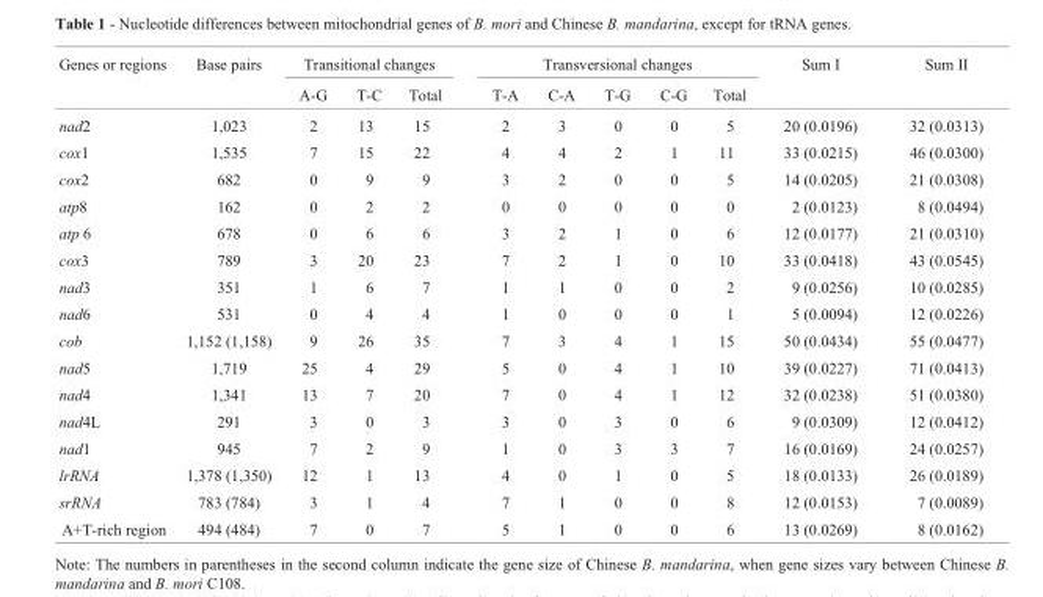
<table><thead><tr><td rowspan="2">Genes or regions</td><td rowspan="2">Base pairs</td><td colspan="3">Transitional changes</td><td colspan="5">Transversional changes</td><td rowspan="2">Sum I</td><td rowspan="2">Sum II</td></tr><tr><td>A-G</td><td>T-C</td><td>Total</td><td>T-A</td><td>C-A</td><td>T-G</td><td>C-G</td><td>Total</td></tr></thead><tbody><tr><td>nad2</td><td>1,023</td><td>2</td><td>13</td><td>15</td><td>2</td><td>3</td><td>0</td><td>0</td><td>5</td><td>20 (0.0196)</td><td>32 (0.0313)</td></tr><tr><td>cox1</td><td>1,535</td><td>7</td><td>15</td><td>22</td><td>4</td><td>4</td><td>2</td><td>1</td><td>11</td><td>33 (0.0215)</td><td>46 (0.0300)</td></tr><tr><td>cox2</td><td>682</td><td>0</td><td>9</td><td>9</td><td>3</td><td>2</td><td>0</td><td>0</td><td>5</td><td>14 (0.0205)</td><td>21 (0.0308)</td></tr><tr><td>atp8</td><td>162</td><td>0</td><td>2</td><td>2</td><td>0</td><td>0</td><td>0</td><td>0</td><td>0</td><td>2 (0.0123)</td><td>8 (0.0494)</td></tr><tr><td>atp 6</td><td>678</td><td>0</td><td>6</td><td>6</td><td>3</td><td>2</td><td>1</td><td>0</td><td>6</td><td>12 (0.0177)</td><td>21 (0.0310)</td></tr><tr><td>cox3</td><td>789</td><td>3</td><td>20</td><td>23</td><td>7</td><td>2</td><td>1</td><td>0</td><td>10</td><td>33 (0.0418)</td><td>43 (0.0545)</td></tr><tr><td>nad3</td><td>351</td><td>1</td><td>6</td><td>7</td><td>1</td><td>1</td><td>0</td><td>0</td><td>2</td><td>9 (0.0256)</td><td>10 (0.0285)</td></tr><tr><td>nad6</td><td>531</td><td>0</td><td>4</td><td>4</td><td>1</td><td>0</td><td>0</td><td>0</td><td>1</td><td>5 (0.0094)</td><td>12 (0.0226)</td></tr><tr><td>cob</td><td>1,152 (1,158)</td><td>9</td><td>26</td><td>35</td><td>7</td><td>3</td><td>4</td><td>1</td><td>15</td><td>50 (0.0434)</td><td>55 (0.0477)</td></tr><tr><td>nad5</td><td>1,719</td><td>25</td><td>4</td><td>29</td><td>5</td><td>0</td><td>4</td><td>1</td><td>10</td><td>39 (0.0227)</td><td>71 (0.0413)</td></tr><tr><td>nad4</td><td>1,341</td><td>13</td><td>7</td><td>20</td><td>7</td><td>0</td><td>4</td><td>1</td><td>12</td><td>32 (0.0238)</td><td>51 (0.0380)</td></tr><tr><td>nad4L</td><td>291</td><td>3</td><td>0</td><td>3</td><td>3</td><td>0</td><td>3</td><td>0</td><td>6</td><td>9 (0.0309)</td><td>12 (0.0412)</td></tr><tr><td>nad1</td><td>945</td><td>7</td><td>2</td><td>9</td><td>1</td><td>0</td><td>3</td><td>3</td><td>7</td><td>16 (0.0169)</td><td>24 (0.0257)</td></tr><tr><td>lrRNA</td><td>1,378 (1,350)</td><td>12</td><td>1</td><td>13</td><td>4</td><td>0</td><td>1</td><td>0</td><td>5</td><td>18 (0.0133)</td><td>26 (0.0189)</td></tr><tr><td>srRNA</td><td>783 (784)</td><td>3</td><td>1</td><td>4</td><td>7</td><td>1</td><td>0</td><td>0</td><td>8</td><td>12 (0.0153)</td><td>7 (0.0089)</td></tr><tr><td>A+T-rich region</td><td>494 (484)</td><td>7</td><td>0</td><td>7</td><td>5</td><td>1</td><td>0</td><td>0</td><td>6</td><td>13 (0.0269)</td><td>8 (0.0162)</td></tr></tbody></table>